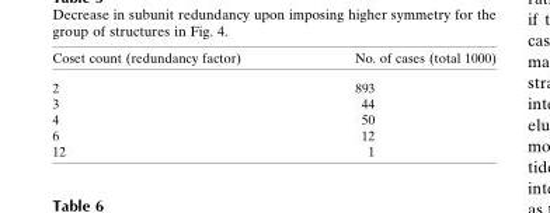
<table><thead><tr><td>Coset count (redundancy factor)</td><td>No. of cases (total 1000)</td></tr></thead><tbody><tr><td>2</td><td>893</td></tr><tr><td>3</td><td>44</td></tr><tr><td>4</td><td>50</td></tr><tr><td>6</td><td>12</td></tr><tr><td>12</td><td>1</td></tr></tbody></table>